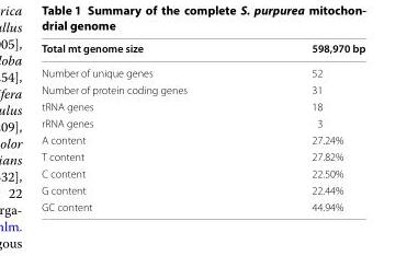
<table><thead><tr><td>Total mt genome size</td><td>598,970 bp</td></tr></thead><tbody><tr><td>Number of unique genes</td><td>52</td></tr><tr><td>Number of protein coding genes</td><td>31</td></tr><tr><td>tRNA genes</td><td>18</td></tr><tr><td>rRNA genes</td><td>3</td></tr><tr><td>A content</td><td>27.24%</td></tr><tr><td>T content</td><td>27.82%</td></tr><tr><td>C content</td><td>22.50%</td></tr><tr><td>G content</td><td>22.44%</td></tr><tr><td>GC content</td><td>44.94%</td></tr></tbody></table>